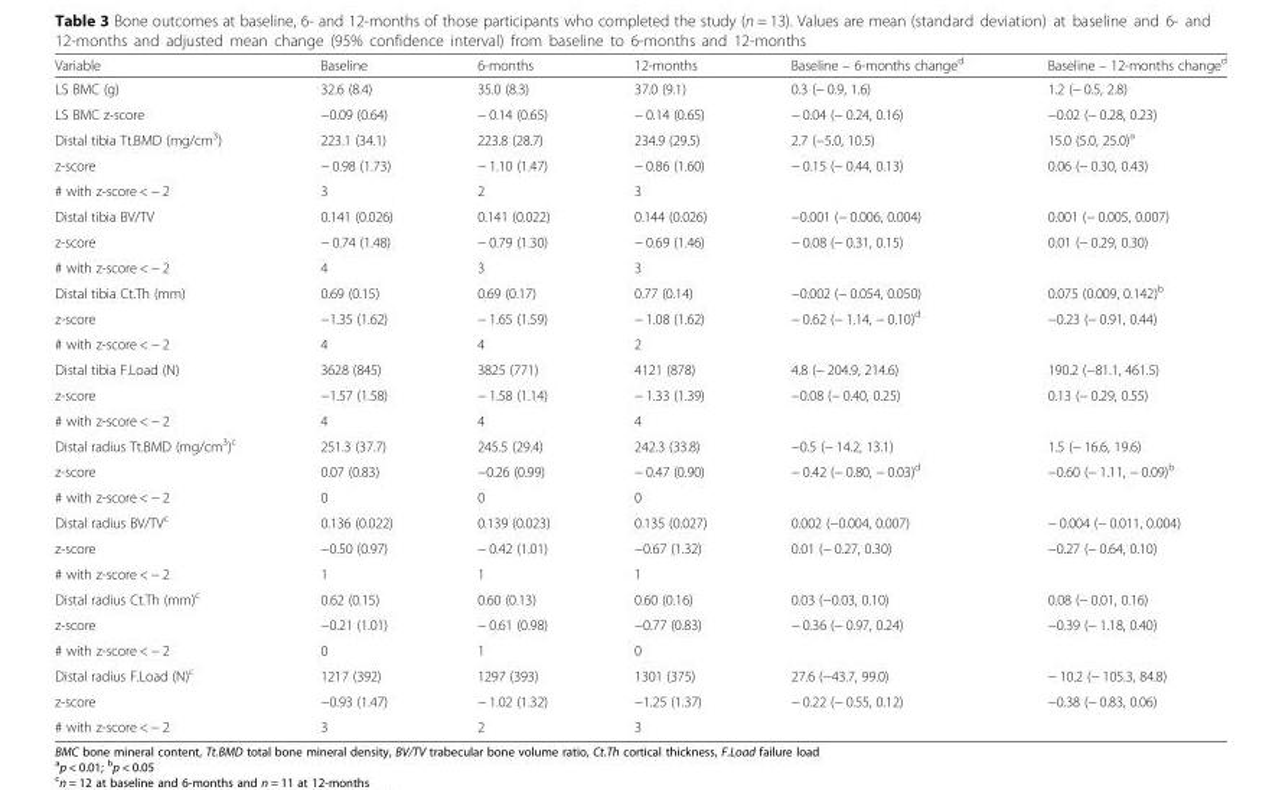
<table><thead><tr><td>Variable</td><td>Baseline</td><td>6-months</td><td>12-months</td><td>Baseline – 6-months change<sup>d</sup></td><td>Baseline – 12-months change<sup>d</sup></td></tr></thead><tbody><tr><td>LS BMC (g)</td><td>32.6 (8.4)</td><td>35.0 (8.3)</td><td>37.0 (9.1)</td><td>0.3 (− 0.9, 1.6)</td><td>1.2 (− 0.5, 2.8)</td></tr><tr><td>LS BMC z-score</td><td>−0.09 (0.64)</td><td>− 0.14 (0.65)</td><td>− 0.14 (0.65)</td><td>− 0.04 (− 0.24, 0.16)</td><td>−0.02 (− 0.28, 0.23)</td></tr><tr><td>Distal tibia Tt.BMD (mg/cm<sup>3</sup>)</td><td>223.1 (34.1)</td><td>223.8 (28.7)</td><td>234.9 (29.5)</td><td>2.7 (−5.0, 10.5)</td><td>15.0 (5.0, 25.0)<sup>a</sup></td></tr><tr><td>z-score</td><td>− 0.98 (1.73)</td><td>− 1.10 (1.47)</td><td>− 0.86 (1.60)</td><td>− 0.15 (− 0.44, 0.13)</td><td>0.06 (− 0.30, 0.43)</td></tr><tr><td># with z-score &lt; − 2</td><td>3</td><td>2</td><td>3</td><td></td><td></td></tr><tr><td>Distal tibia BV/TV</td><td>0.141 (0.026)</td><td>0.141 (0.022)</td><td>0.144 (0.026)</td><td>−0.001 (− 0.006, 0.004)</td><td>0.001 (− 0.005, 0.007)</td></tr><tr><td>z-score</td><td>− 0.74 (1.48)</td><td>− 0.79 (1.30)</td><td>− 0.69 (1.46)</td><td>− 0.08 (− 0.31, 0.15)</td><td>0.01 (− 0.29, 0.30)</td></tr><tr><td># with z-score &lt; − 2</td><td>4</td><td>3</td><td>3</td><td></td><td></td></tr><tr><td>Distal tibia Ct.Th (mm)</td><td>0.69 (0.15)</td><td>0.69 (0.17)</td><td>0.77 (0.14)</td><td>−0.002 (− 0.054, 0.050)</td><td>0.075 (0.009, 0.142)<sup>b</sup></td></tr><tr><td>z-score</td><td>−1.35 (1.62)</td><td>− 1.65 (1.59)</td><td>− 1.08 (1.62)</td><td>− 0.62 (− 1.14, − 0.10)<sup>d</sup></td><td>−0.23 (− 0.91, 0.44)</td></tr><tr><td># with z-score &lt; − 2</td><td>4</td><td>4</td><td>2</td><td></td><td></td></tr><tr><td>Distal tibia F.Load (N)</td><td>3628 (845)</td><td>3825 (771)</td><td>4121 (878)</td><td>4.8 (− 204.9, 214.6)</td><td>190.2 (−81.1, 461.5)</td></tr><tr><td>z-score</td><td>−1.57 (1.58)</td><td>− 1.58 (1.14)</td><td>− 1.33 (1.39)</td><td>−0.08 (− 0.40, 0.25)</td><td>0.13 (− 0.29, 0.55)</td></tr><tr><td># with z-score &lt; − 2</td><td>4</td><td>4</td><td>4</td><td></td><td></td></tr><tr><td>Distal radius Tt.BMD (mg/cm<sup>3</sup>)<sup>c</sup></td><td>251.3 (37.7)</td><td>245.5 (29.4)</td><td>242.3 (33.8)</td><td>−0.5 (− 14.2, 13.1)</td><td>1.5 (− 16.6, 19.6)</td></tr><tr><td>z-score</td><td>0.07 (0.83)</td><td>−0.26 (0.99)</td><td>− 0.47 (0.90)</td><td>− 0.42 (− 0.80, − 0.03)<sup>d</sup></td><td>−0.60 (− 1.11, − 0.09)<sup>b</sup></td></tr><tr><td># with z-score &lt; − 2</td><td>0</td><td>0</td><td>0</td><td></td><td></td></tr><tr><td>Distal radius BV/TV<sup>c</sup></td><td>0.136 (0.022)</td><td>0.139 (0.023)</td><td>0.135 (0.027)</td><td>0.002 (−0.004, 0.007)</td><td>− 0.004 (− 0.011, 0.004)</td></tr><tr><td>z-score</td><td>−0.50 (0.97)</td><td>− 0.42 (1.01)</td><td>−0.67 (1.32)</td><td>0.01 (− 0.27, 0.30)</td><td>−0.27 (− 0.64, 0.10)</td></tr><tr><td># with z-score &lt; − 2</td><td>1</td><td>1</td><td>1</td><td></td><td></td></tr><tr><td>Distal radius Ct.Th (mm)<sup>c</sup></td><td>0.62 (0.15)</td><td>0.60 (0.13)</td><td>0.60 (0.16)</td><td>0.03 (−0.03, 0.10)</td><td>0.08 (− 0.01, 0.16)</td></tr><tr><td>z-score</td><td>−0.21 (1.01)</td><td>− 0.61 (0.98)</td><td>−0.77 (0.83)</td><td>− 0.36 (− 0.97, 0.24)</td><td>−0.39 (− 1.18, 0.40)</td></tr><tr><td># with z-score &lt; − 2</td><td>0</td><td>1</td><td>0</td><td></td><td></td></tr><tr><td>Distal radius F.Load (N)<sup>c</sup></td><td>1217 (392)</td><td>1297 (393)</td><td>1301 (375)</td><td>27.6 (−43.7, 99.0)</td><td>− 10.2 (− 105.3, 84.8)</td></tr><tr><td>z-score</td><td>−0.93 (1.47)</td><td>− 1.02 (1.32)</td><td>−1.25 (1.37)</td><td>− 0.22 (− 0.55, 0.12)</td><td>−0.38 (− 0.83, 0.06)</td></tr><tr><td># with z-score &lt; − 2</td><td>3</td><td>2</td><td>3</td><td></td><td></td></tr></tbody></table>